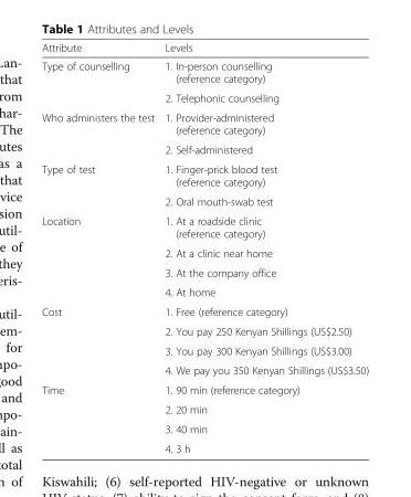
<table><thead><tr><td>Attribute</td><td>Levels</td></tr></thead><tbody><tr><td rowspan="2">Type of counselling</td><td>1. In-person counselling (reference category)</td></tr><tr><td>2. Telephonic counselling</td></tr><tr><td rowspan="2">Who administers the test</td><td>1. Provider-administered (reference category)</td></tr><tr><td>2. Self-administered</td></tr><tr><td rowspan="2">Type of test</td><td>1. Finger-prick blood test (reference category)</td></tr><tr><td>2. Oral mouth-swab test</td></tr><tr><td rowspan="4">Location</td><td>1. At a roadside clinic (reference category)</td></tr><tr><td>2. At a clinic near home</td></tr><tr><td>3. At the company office</td></tr><tr><td>4. At home</td></tr><tr><td rowspan="4">Cost</td><td>1. Free (reference category)</td></tr><tr><td>2. You pay 250 Kenyan Shillings (US$2.50)</td></tr><tr><td>3. You pay 300 Kenyan Shillings (US$3.00)</td></tr><tr><td>4. We pay you 350 Kenyan Shillings (US$3.50)</td></tr><tr><td rowspan="4">Time</td><td>1. 90 min (reference category)</td></tr><tr><td>2. 20 min</td></tr><tr><td>3. 40 min</td></tr><tr><td>4. 3 h</td></tr></tbody></table>